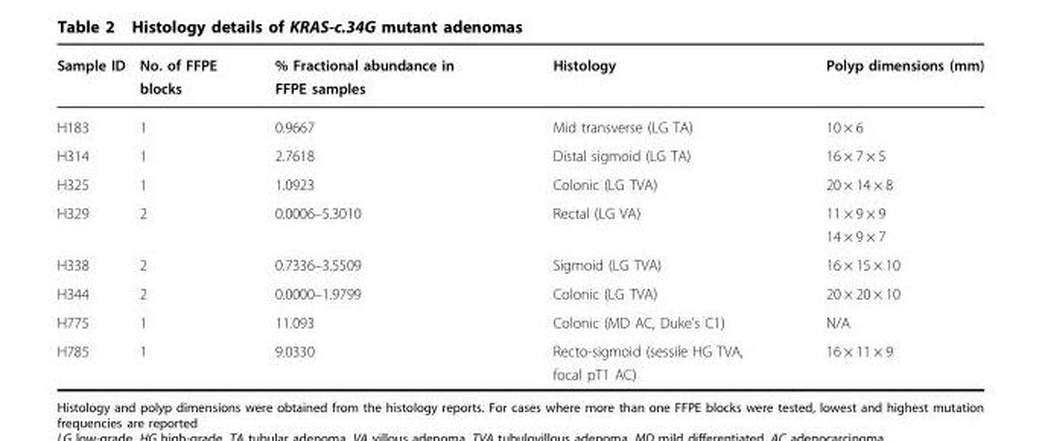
<table><thead><tr><td>Sample ID</td><td>No. of FFPE blocks</td><td>% Fractional abundance in FFPE samples</td><td>Histology</td><td>Polyp dimensions (mm)</td></tr></thead><tbody><tr><td>H183</td><td>1</td><td>0.9667</td><td>Mid transverse (LG TA)</td><td>10 × 6</td></tr><tr><td>H314</td><td>1</td><td>2.7618</td><td>Distal sigmoid (LG TA)</td><td>16 × 7 × 5</td></tr><tr><td>H325</td><td>1</td><td>1.0923</td><td>Colonic (LG TVA)</td><td>20 × 14 × 8</td></tr><tr><td>H329</td><td>2</td><td>0.0006–5.3010</td><td>Rectal (LG VA)</td><td>11 × 9 × 9 14 × 9 × 7</td></tr><tr><td>H338</td><td>2</td><td>0.7336–3.5509</td><td>Sigmoid (LG TVA)</td><td>16 × 15 × 10</td></tr><tr><td>H344</td><td>2</td><td>0.0000–1.9799</td><td>Colonic (LG TVA)</td><td>20 × 20 × 10</td></tr><tr><td>H775</td><td>1</td><td>11.093</td><td>Colonic (MD AC, Duke’s C1)</td><td>N/A</td></tr><tr><td>H785</td><td>1</td><td>9.0330</td><td>Recto-sigmoid (sessile HG TVA, focal pT1 AC)</td><td>16 × 11 × 9</td></tr></tbody></table>